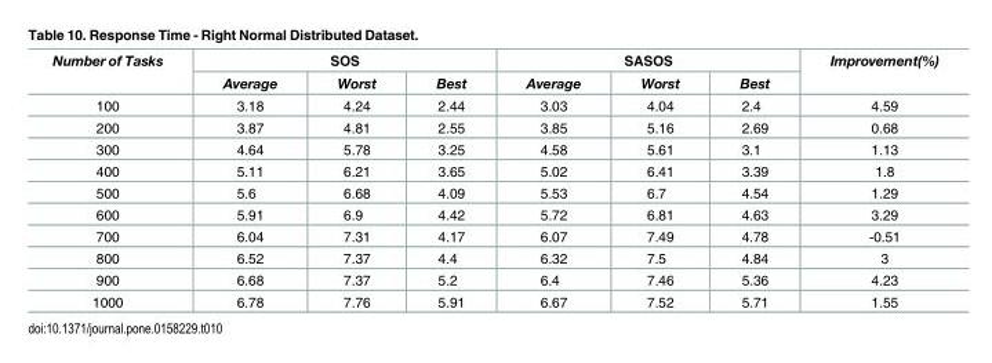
<table><thead><tr><td rowspan="2">Number of Tasks</td><td colspan="3">SOS</td><td colspan="3">SASOS</td><td rowspan="2">Improvement(%)</td></tr><tr><td>Average</td><td>Worst</td><td>Best</td><td>Average</td><td>Worst</td><td>Best</td></tr></thead><tbody><tr><td>100</td><td>3.18</td><td>4.24</td><td>2.44</td><td>3.03</td><td>4.04</td><td>2.4</td><td>4.59</td></tr><tr><td>200</td><td>3.87</td><td>4.81</td><td>2.55</td><td>3.85</td><td>5.16</td><td>2.69</td><td>0.68</td></tr><tr><td>300</td><td>4.64</td><td>5.78</td><td>3.25</td><td>4.58</td><td>5.61</td><td>3.1</td><td>1.13</td></tr><tr><td>400</td><td>5.11</td><td>6.21</td><td>3.65</td><td>5.02</td><td>6.41</td><td>3.39</td><td>1.8</td></tr><tr><td>500</td><td>5.6</td><td>6.68</td><td>4.09</td><td>5.53</td><td>6.7</td><td>4.54</td><td>1.29</td></tr><tr><td>600</td><td>5.91</td><td>6.9</td><td>4.42</td><td>5.72</td><td>6.81</td><td>4.63</td><td>3.29</td></tr><tr><td>700</td><td>6.04</td><td>7.31</td><td>4.17</td><td>6.07</td><td>7.49</td><td>4.78</td><td>-0.51</td></tr><tr><td>800</td><td>6.52</td><td>7.37</td><td>4.4</td><td>6.32</td><td>7.5</td><td>4.84</td><td>3</td></tr><tr><td>900</td><td>6.68</td><td>7.37</td><td>5.2</td><td>6.4</td><td>7.46</td><td>5.36</td><td>4.23</td></tr><tr><td>1000</td><td>6.78</td><td>7.76</td><td>5.91</td><td>6.67</td><td>7.52</td><td>5.71</td><td>1.55</td></tr></tbody></table>